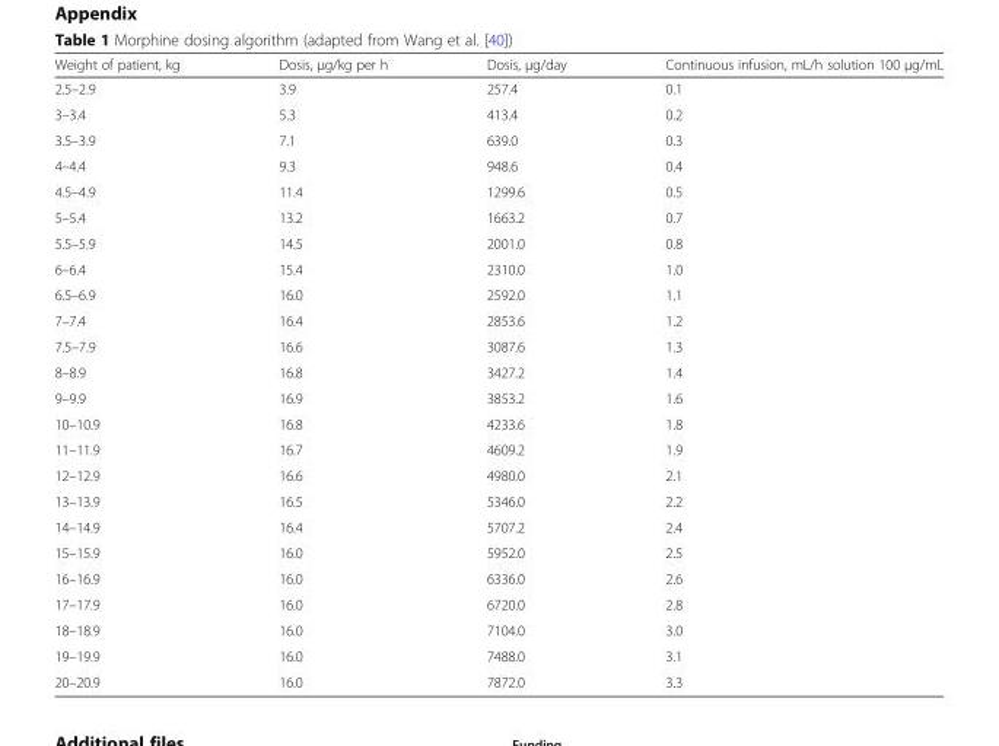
<table><thead><tr><td>Weight of patient, kg</td><td>Dosis, μg/kg per h</td><td>Dosis, μg/day</td><td>Continuous infusion, mL/h solution 100 μg/mL</td></tr></thead><tbody><tr><td>2.5–2.9</td><td>3.9</td><td>257.4</td><td>0.1</td></tr><tr><td>3–3.4</td><td>5.3</td><td>413.4</td><td>0.2</td></tr><tr><td>3.5–3.9</td><td>7.1</td><td>639.0</td><td>0.3</td></tr><tr><td>4–4.4</td><td>9.3</td><td>948.6</td><td>0.4</td></tr><tr><td>4.5–4.9</td><td>11.4</td><td>1299.6</td><td>0.5</td></tr><tr><td>5–5.4</td><td>13.2</td><td>1663.2</td><td>0.7</td></tr><tr><td>5.5–5.9</td><td>14.5</td><td>2001.0</td><td>0.8</td></tr><tr><td>6–6.4</td><td>15.4</td><td>2310.0</td><td>1.0</td></tr><tr><td>6.5–6.9</td><td>16.0</td><td>2592.0</td><td>1.1</td></tr><tr><td>7–7.4</td><td>16.4</td><td>2853.6</td><td>1.2</td></tr><tr><td>7.5–7.9</td><td>16.6</td><td>3087.6</td><td>1.3</td></tr><tr><td>8–8.9</td><td>16.8</td><td>3427.2</td><td>1.4</td></tr><tr><td>9–9.9</td><td>16.9</td><td>3853.2</td><td>1.6</td></tr><tr><td>10–10.9</td><td>16.8</td><td>4233.6</td><td>1.8</td></tr><tr><td>11–11.9</td><td>16.7</td><td>4609.2</td><td>1.9</td></tr><tr><td>12–12.9</td><td>16.6</td><td>4980.0</td><td>2.1</td></tr><tr><td>13–13.9</td><td>16.5</td><td>5346.0</td><td>2.2</td></tr><tr><td>14–14.9</td><td>16.4</td><td>5707.2</td><td>2.4</td></tr><tr><td>15–15.9</td><td>16.0</td><td>5952.0</td><td>2.5</td></tr><tr><td>16–16.9</td><td>16.0</td><td>6336.0</td><td>2.6</td></tr><tr><td>17–17.9</td><td>16.0</td><td>6720.0</td><td>2.8</td></tr><tr><td>18–18.9</td><td>16.0</td><td>7104.0</td><td>3.0</td></tr><tr><td>19–19.9</td><td>16.0</td><td>7488.0</td><td>3.1</td></tr><tr><td>20–20.9</td><td>16.0</td><td>7872.0</td><td>3.3</td></tr></tbody></table>